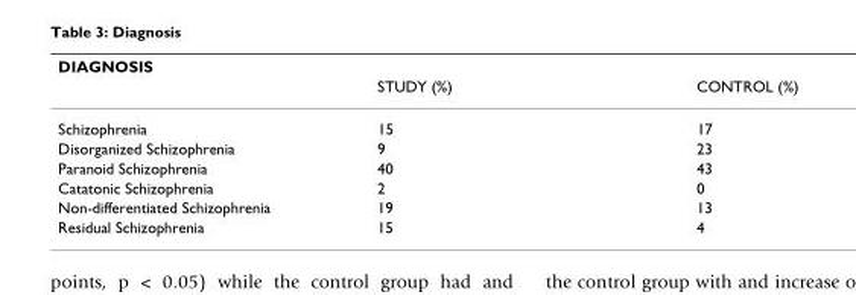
<table><thead><tr><td colspan="3">DIAGNOSIS</td></tr><tr><td></td><td>STUDY (%)</td><td>CONTROL (%)</td></tr></thead><tbody><tr><td>Schizophrenia</td><td>15</td><td>17</td></tr><tr><td>Disorganized Schizophrenia</td><td>9</td><td>23</td></tr><tr><td>Paranoid Schizophrenia</td><td>40</td><td>43</td></tr><tr><td>Catatonic Schizophrenia</td><td>2</td><td>0</td></tr><tr><td>Non-differentiated Schizophrenia</td><td>19</td><td>13</td></tr><tr><td>Residual Schizophrenia</td><td>15</td><td>4</td></tr></tbody></table>